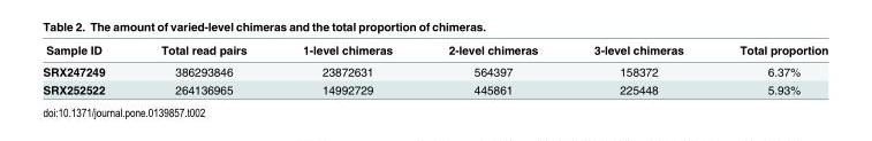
<table><thead><tr><td>Sample ID</td><td>Total read pairs</td><td>1-level chimeras</td><td>2-level chimeras</td><td>3-level chimeras</td><td>Total proportion</td></tr></thead><tbody><tr><td>SRX247249</td><td>386293846</td><td>23872631</td><td>564397</td><td>158372</td><td>6.37%</td></tr><tr><td>SRX252522</td><td>264136965</td><td>14992729</td><td>445861</td><td>225448</td><td>5.93%</td></tr></tbody></table>